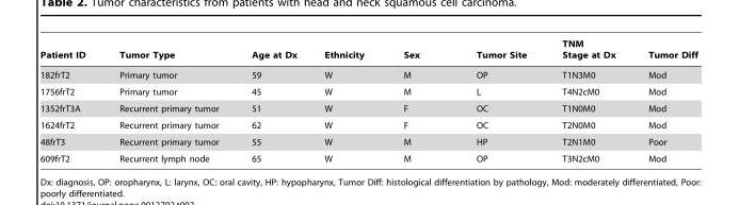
<table><thead><tr><td>Patient ID</td><td>Tumor Type</td><td>Age at Dx</td><td>Ethnicity</td><td>Sex</td><td>Tumor Site</td><td>TNM Stage at Dx</td><td>Tumor Diff</td></tr></thead><tbody><tr><td>182frT2</td><td>Primary tumor</td><td>59</td><td>W</td><td>M</td><td>OP</td><td>T1N3M0</td><td>Mod</td></tr><tr><td>1756frT2</td><td>Primary tumor</td><td>45</td><td>W</td><td>M</td><td>L</td><td>T4N2cM0</td><td>Mod</td></tr><tr><td>1352frT3A</td><td>Recurrent primary tumor</td><td>51</td><td>W</td><td>F</td><td>OC</td><td>T1N0M0</td><td>Mod</td></tr><tr><td>1624frT2</td><td>Recurrent primary tumor</td><td>62</td><td>W</td><td>F</td><td>OC</td><td>T2N0M0</td><td>Mod</td></tr><tr><td>48frT3</td><td>Recurrent primary tumor</td><td>55</td><td>W</td><td>M</td><td>HP</td><td>T2N1M0</td><td>Poor</td></tr><tr><td>609frT2</td><td>Recurrent lymph node</td><td>65</td><td>W</td><td>M</td><td>OP</td><td>T3N2cM0</td><td>Mod</td></tr></tbody></table>